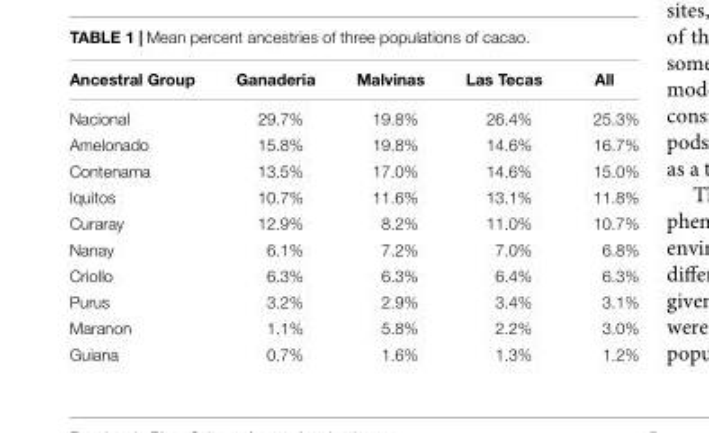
<table><thead><tr><td>Ancestral Group</td><td>Ganaderia</td><td>Malvinas</td><td>Las Tecas</td><td>All</td></tr></thead><tbody><tr><td>Nacional</td><td>29.7%</td><td>19.8%</td><td>26.4%</td><td>25.3%</td></tr><tr><td>Amelonado</td><td>15.8%</td><td>19.8%</td><td>14.6%</td><td>16.7%</td></tr><tr><td>Contenama</td><td>13.5%</td><td>17.0%</td><td>14.6%</td><td>15.0%</td></tr><tr><td>Iquitos</td><td>10.7%</td><td>11.6%</td><td>13.1%</td><td>11.8%</td></tr><tr><td>Curaray</td><td>12.9%</td><td>8.2%</td><td>11.0%</td><td>10.7%</td></tr><tr><td>Nanay</td><td>6.1%</td><td>7.2%</td><td>7.0%</td><td>6.8%</td></tr><tr><td>Criollo</td><td>6.3%</td><td>6.3%</td><td>6.4%</td><td>6.3%</td></tr><tr><td>Purus</td><td>3.2%</td><td>2.9%</td><td>3.4%</td><td>3.1%</td></tr><tr><td>Maranon</td><td>1.1%</td><td>5.8%</td><td>2.2%</td><td>3.0%</td></tr><tr><td>Guiana</td><td>0.7%</td><td>1.6%</td><td>1.3%</td><td>1.2%</td></tr></tbody></table>